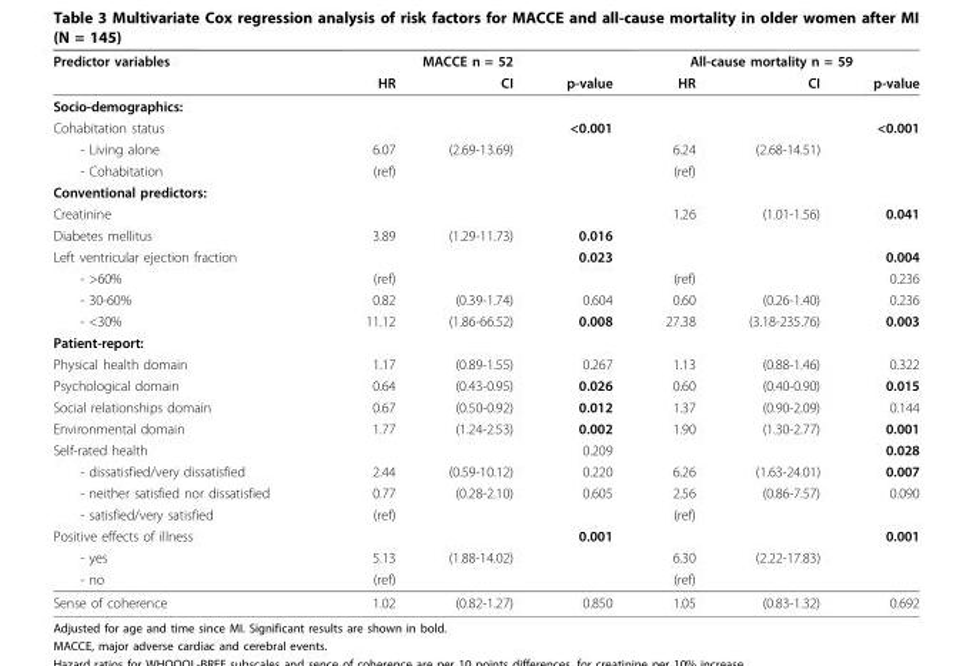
<table><thead><tr><td rowspan="2">Predictor variables</td><td colspan="3">MACCE n = 52</td><td colspan="3">All-cause mortality n = 59</td></tr><tr><td>HR</td><td>CI</td><td>p-value</td><td>HR</td><td>CI</td><td>p-value</td></tr></thead><tbody><tr><td colspan="7">Socio-demographics:</td></tr><tr><td>Cohabitation status</td><td></td><td></td><td>&lt;0.001</td><td></td><td></td><td>&lt;0.001</td></tr><tr><td>- Living alone</td><td>6.07</td><td>(2.69-13.69)</td><td></td><td>6.24</td><td>(2.68-14.51)</td><td></td></tr><tr><td>- Cohabitation</td><td>(ref)</td><td></td><td></td><td>(ref)</td><td></td><td></td></tr><tr><td colspan="7">Conventional predictors:</td></tr><tr><td>Creatinine</td><td></td><td></td><td></td><td>1.26</td><td>(1.01-1.56)</td><td>0.041</td></tr><tr><td>Diabetes mellitus</td><td>3.89</td><td>(1.29-11.73)</td><td>0.016</td><td></td><td></td><td></td></tr><tr><td>Left ventricular ejection fraction</td><td></td><td></td><td>0.023</td><td></td><td></td><td>0.004</td></tr><tr><td>- &gt;60%</td><td>(ref)</td><td></td><td></td><td>(ref)</td><td></td><td>0.236</td></tr><tr><td>- 30-60%</td><td>0.82</td><td>(0.39-1.74)</td><td>0.604</td><td>0.60</td><td>(0.26-1.40)</td><td>0.236</td></tr><tr><td>- &lt;30%</td><td>11.12</td><td>(1.86-66.52)</td><td>0.008</td><td>27.38</td><td>(3.18-235.76)</td><td>0.003</td></tr><tr><td colspan="7">Patient-report:</td></tr><tr><td>Physical health domain</td><td>1.17</td><td>(0.89-1.55)</td><td>0.267</td><td>1.13</td><td>(0.88-1.46)</td><td>0.322</td></tr><tr><td>Psychological domain</td><td>0.64</td><td>(0.43-0.95)</td><td>0.026</td><td>0.60</td><td>(0.40-0.90)</td><td>0.015</td></tr><tr><td>Social relationships domain</td><td>0.67</td><td>(0.50-0.92)</td><td>0.012</td><td>1.37</td><td>(0.90-2.09)</td><td>0.144</td></tr><tr><td>Environmental domain</td><td>1.77</td><td>(1.24-2.53)</td><td>0.002</td><td>1.90</td><td>(1.30-2.77)</td><td>0.001</td></tr><tr><td>Self-rated health</td><td></td><td></td><td>0.209</td><td></td><td></td><td>0.028</td></tr><tr><td>- dissatisfied/very dissatisfied</td><td>2.44</td><td>(0.59-10.12)</td><td>0.220</td><td>6.26</td><td>(1.63-24.01)</td><td>0.007</td></tr><tr><td>- neither satisfied nor dissatisfied</td><td>0.77</td><td>(0.28-2.10)</td><td>0.605</td><td>2.56</td><td>(0.86-7.57)</td><td>0.090</td></tr><tr><td>- satisfied/very satisfied</td><td>(ref)</td><td></td><td></td><td>(ref)</td><td></td><td></td></tr><tr><td>Positive effects of illness</td><td></td><td></td><td>0.001</td><td></td><td></td><td>0.001</td></tr><tr><td>- yes</td><td>5.13</td><td>(1.88-14.02)</td><td></td><td>6.30</td><td>(2.22-17.83)</td><td></td></tr><tr><td>- no</td><td>(ref)</td><td></td><td></td><td>(ref)</td><td></td><td></td></tr><tr><td>Sense of coherence</td><td>1.02</td><td>(0.82-1.27)</td><td>0.850</td><td>1.05</td><td>(0.83-1.32)</td><td>0.692</td></tr></tbody></table>